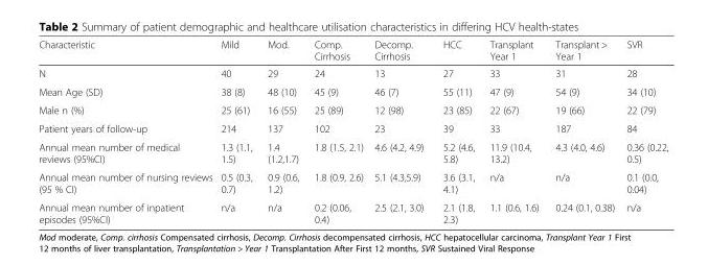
<table><thead><tr><td>Characteristic</td><td>Mild</td><td>Mod.</td><td>Comp. Cirrhosis</td><td>Decomp. Cirrhosis</td><td>HCC</td><td>Transplant Year 1</td><td>Transplant &gt; Year 1</td><td>SVR</td></tr></thead><tbody><tr><td>N</td><td>40</td><td>29</td><td>24</td><td>13</td><td>27</td><td>33</td><td>31</td><td>28</td></tr><tr><td>Mean Age (SD)</td><td>38 (8)</td><td>48 (10)</td><td>45 (9)</td><td>46 (7)</td><td>55 (11)</td><td>47 (9)</td><td>54 (9)</td><td>34 (10)</td></tr><tr><td>Male n (%)</td><td>25 (61)</td><td>16 (55)</td><td>25 (89)</td><td>12 (98)</td><td>23 (85)</td><td>22 (67)</td><td>19 (66)</td><td>22 (79)</td></tr><tr><td>Patient years of follow-up</td><td>214</td><td>137</td><td>102</td><td>23</td><td>39</td><td>33</td><td>187</td><td>84</td></tr><tr><td>Annual mean number of medical reviews (95%CI)</td><td>1.3 (1.1, 1.5)</td><td>1.4 (1.2,1.7)</td><td>1.8 (1.5, 2.1)</td><td>4.6 (4.2, 4.9)</td><td>5.2 (4.6, 5.8)</td><td>11.9 (10.4, 13.2)</td><td>4.3 (4.0, 4.6)</td><td>0.36 (0.22, 0.5)</td></tr><tr><td>Annual mean number of nursing reviews (95 % CI)</td><td>0.5 (0.3, 0.7)</td><td>0.9 (0.6, 1.2)</td><td>1.8 (0.9, 2.6)</td><td>5.1 (4.3,5.9)</td><td>3.6 (3.1, 4.1)</td><td>n/a</td><td>n/a</td><td>0.1 (0.0, 0.04)</td></tr><tr><td>Annual mean number of inpatient episodes (95%CI)</td><td>n/a</td><td>n/a</td><td>0.2 (0.06, 0.4)</td><td>2.5 (2.1, 3.0)</td><td>2.1 (1.8, 2.3)</td><td>1.1 (0.6, 1.6)</td><td>0.24 (0.1, 0.38)</td><td>n/a</td></tr></tbody></table>